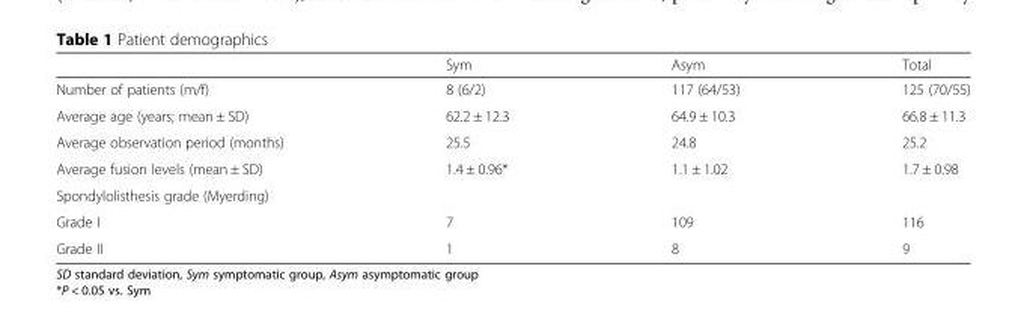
<table><thead><tr><td></td><td>Sym</td><td>Asym</td><td>Total</td></tr></thead><tbody><tr><td>Number of patients (m/f)</td><td>8 (6/2)</td><td>117 (64/53)</td><td>125 (70/55)</td></tr><tr><td>Average age (years; mean ± SD)</td><td>62.2 ± 12.3</td><td>64.9 ± 10.3</td><td>66.8 ± 11.3</td></tr><tr><td>Average observation period (months)</td><td>25.5</td><td>24.8</td><td>25.2</td></tr><tr><td>Average fusion levels (mean ± SD)</td><td>1.4 ± 0.96*</td><td>1.1 ± 1.02</td><td>1.7 ± 0.98</td></tr><tr><td colspan="4">Spondylolisthesis grade (Myerding)</td></tr><tr><td>Grade I</td><td>7</td><td>109</td><td>116</td></tr><tr><td>Grade II</td><td>1</td><td>8</td><td>9</td></tr></tbody></table>